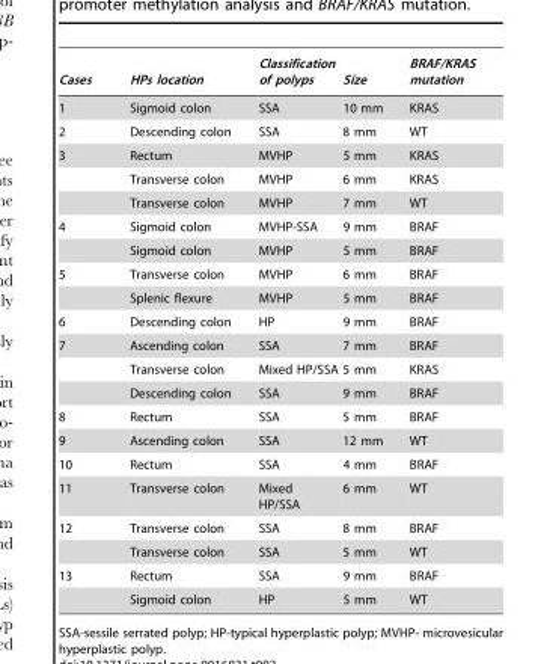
<table><thead><tr><td>Cases</td><td>HPs location</td><td>Classification of polyps</td><td>Size</td><td>BRAF/KRAS mutation</td></tr></thead><tbody><tr><td>1</td><td>Sigmoid colon</td><td>SSA</td><td>10 mm</td><td>KRAS</td></tr><tr><td>2</td><td>Descending colon</td><td>SSA</td><td>8 mm</td><td>WT</td></tr><tr><td rowspan="3">3</td><td>Rectum</td><td>MVHP</td><td>5 mm</td><td>KRAS</td></tr><tr><td>Transverse colon</td><td>MVHP</td><td>6 mm</td><td>KRAS</td></tr><tr><td>Transverse colon</td><td>MVHP</td><td>7 mm</td><td>WT</td></tr><tr><td rowspan="2">4</td><td>Sigmoid colon</td><td>MVHP-SSA</td><td>9 mm</td><td>BRAF</td></tr><tr><td>Sigmoid colon</td><td>MVHP</td><td>5 mm</td><td>BRAF</td></tr><tr><td rowspan="2">5</td><td>Transverse colon</td><td>MVHP</td><td>6 mm</td><td>BRAF</td></tr><tr><td>Splenic flexure</td><td>MVHP</td><td>5 mm</td><td>BRAF</td></tr><tr><td>6</td><td>Descending colon</td><td>HP</td><td>9 mm</td><td>BRAF</td></tr><tr><td rowspan="3">7</td><td>Ascending colon</td><td>SSA</td><td>7 mm</td><td>BRAF</td></tr><tr><td>Transverse colon</td><td>Mixed HP/SSA</td><td>5 mm</td><td>KRAS</td></tr><tr><td>Descending colon</td><td>SSA</td><td>9 mm</td><td>BRAF</td></tr><tr><td>8</td><td>Rectum</td><td>SSA</td><td>5 mm</td><td>BRAF</td></tr><tr><td>9</td><td>Ascending colon</td><td>SSA</td><td>12 mm</td><td>WT</td></tr><tr><td>10</td><td>Rectum</td><td>SSA</td><td>4 mm</td><td>BRAF</td></tr><tr><td>11</td><td>Transverse colon</td><td>Mixed HP/SSA</td><td>6 mm</td><td>WT</td></tr><tr><td rowspan="2">12</td><td>Transverse colon</td><td>SSA</td><td>8 mm</td><td>BRAF</td></tr><tr><td>Transverse colon</td><td>SSA</td><td>5 mm</td><td>WT</td></tr><tr><td rowspan="2">13</td><td>Rectum</td><td>SSA</td><td>9 mm</td><td>BRAF</td></tr><tr><td>Sigmoid colon</td><td>HP</td><td>5 mm</td><td>WT</td></tr></tbody></table>